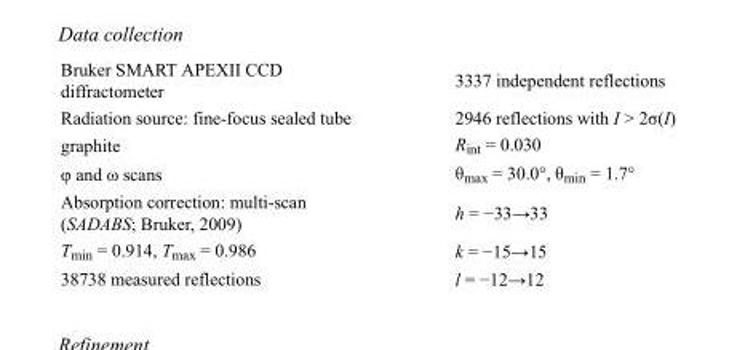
<table><tbody><tr><td>Bruker SMART APEXII CCD diffractometer</td><td>3337 independent reflections</td></tr><tr><td>Radiation source: fine-focus sealed tube</td><td>2946 reflections with I &gt; 2σ(I)</td></tr><tr><td>graphite</td><td>R<sub>int</sub> = 0.030</td></tr><tr><td>φ and ω scans</td><td>θ<sub>max</sub> = 30.0°, θ<sub>min</sub> = 1.7°</td></tr><tr><td>Absorption correction: multi-scan (SADABS; Bruker, 2009)</td><td>h = −33→33</td></tr><tr><td>T<sub>min</sub> = 0.914, T<sub>max</sub> = 0.986</td><td>k = −15→15</td></tr><tr><td>38738 measured reflections</td><td>l = −12→12</td></tr></tbody></table>